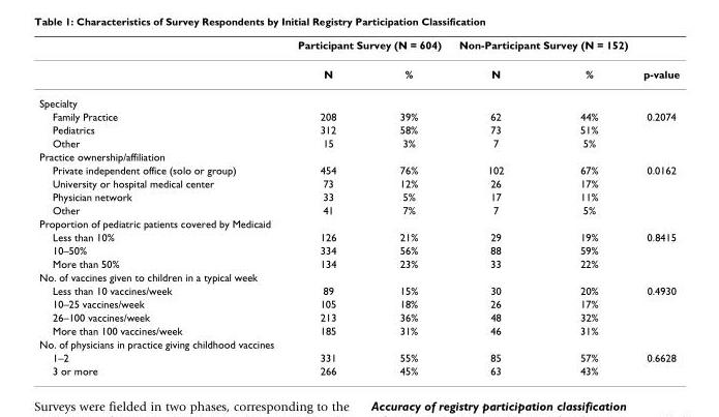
<table><thead><tr><td rowspan="2"></td><td colspan="2">Participant Survey (N = 604)</td><td colspan="2">Non-Participant Survey (N = 152)</td><td rowspan="2">p-value</td></tr><tr><td>N</td><td>%</td><td>N</td><td>%</td></tr></thead><tbody><tr><td colspan="6">Specialty</td></tr><tr><td>Family Practice</td><td>208</td><td>39%</td><td>62</td><td>44%</td><td>0.2074</td></tr><tr><td>Pediatrics</td><td>312</td><td>58%</td><td>73</td><td>51%</td><td></td></tr><tr><td>Other</td><td>15</td><td>3%</td><td>7</td><td>5%</td><td></td></tr><tr><td colspan="6">Practice ownership/affiliation</td></tr><tr><td>Private independent office (solo or group)</td><td>454</td><td>76%</td><td>102</td><td>67%</td><td>0.0162</td></tr><tr><td>University or hospital medical center</td><td>73</td><td>12%</td><td>26</td><td>17%</td><td></td></tr><tr><td>Physician network</td><td>33</td><td>5%</td><td>17</td><td>11%</td><td></td></tr><tr><td>Other</td><td>41</td><td>7%</td><td>7</td><td>5%</td><td></td></tr><tr><td colspan="6">Proportion of pediatric patients covered by Medicaid</td></tr><tr><td>Less than 10%</td><td>126</td><td>21%</td><td>29</td><td>19%</td><td>0.8415</td></tr><tr><td>10–50%</td><td>334</td><td>56%</td><td>88</td><td>59%</td><td></td></tr><tr><td>More than 50%</td><td>134</td><td>23%</td><td>33</td><td>22%</td><td></td></tr><tr><td colspan="6">No. of vaccines given to children in a typical week</td></tr><tr><td>Less than 10 vaccines/week</td><td>89</td><td>15%</td><td>30</td><td>20%</td><td>0.4930</td></tr><tr><td>10–25 vaccines/week</td><td>105</td><td>18%</td><td>26</td><td>17%</td><td></td></tr><tr><td>26–100 vaccines/week</td><td>213</td><td>36%</td><td>48</td><td>32%</td><td></td></tr><tr><td>More than 100 vaccines/week</td><td>185</td><td>31%</td><td>46</td><td>31%</td><td></td></tr><tr><td colspan="6">No. of physicians in practice giving childhood vaccines</td></tr><tr><td>1–2</td><td>331</td><td>55%</td><td>85</td><td>57%</td><td>0.6628</td></tr><tr><td>3 or more</td><td>266</td><td>45%</td><td>63</td><td>43%</td><td></td></tr></tbody></table>